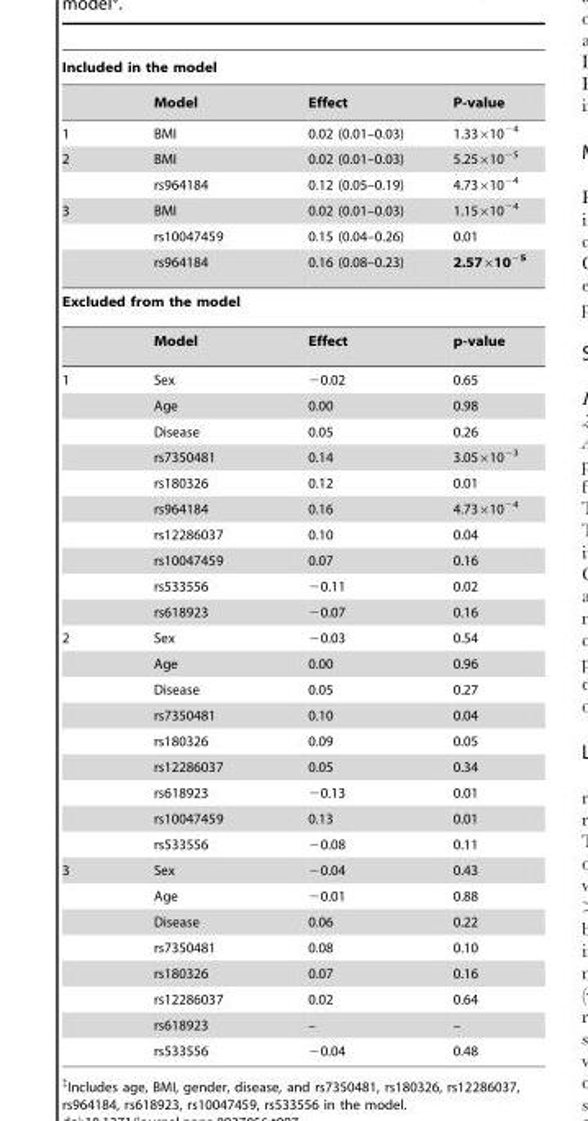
<table><thead><tr><td colspan="4">Included in the model</td></tr><tr><td></td><td>Model</td><td>Effect</td><td>P-value</td></tr></thead><tbody><tr><td>1</td><td>BMI</td><td>0.02 (0.01–0.03)</td><td>1.33×10<sup>−4</sup></td></tr><tr><td rowspan="2">2</td><td>BMI</td><td>0.02 (0.01–0.03)</td><td>5.25×10<sup>−5</sup></td></tr><tr><td>rs964184</td><td>0.12 (0.05–0.19)</td><td>4.73×10<sup>−4</sup></td></tr><tr><td rowspan="3">3</td><td>BMI</td><td>0.02 (0.01–0.03)</td><td>1.15×10<sup>−4</sup></td></tr><tr><td>rs10047459</td><td>0.15 (0.04–0.26)</td><td>0.01</td></tr><tr><td>rs964184</td><td>0.16 (0.08–0.23)</td><td>2.57×10<sup>−5</sup></td></tr><tr><td colspan="4">Excluded from the model</td></tr><tr><td></td><td>Model</td><td>Effect</td><td>p-value</td></tr><tr><td rowspan="10">1</td><td>Sex</td><td>−0.02</td><td>0.65</td></tr><tr><td>Age</td><td>0.00</td><td>0.98</td></tr><tr><td>Disease</td><td>0.05</td><td>0.26</td></tr><tr><td>rs7350481</td><td>0.14</td><td>3.05×10<sup>−3</sup></td></tr><tr><td>rs180326</td><td>0.12</td><td>0.01</td></tr><tr><td>rs964184</td><td>0.16</td><td>4.73×10<sup>−4</sup></td></tr><tr><td>rs12286037</td><td>0.10</td><td>0.04</td></tr><tr><td>rs10047459</td><td>0.07</td><td>0.16</td></tr><tr><td>rs533556</td><td>−0.11</td><td>0.02</td></tr><tr><td>rs618923</td><td>−0.07</td><td>0.16</td></tr><tr><td rowspan="9">2</td><td>Sex</td><td>−0.03</td><td>0.54</td></tr><tr><td>Age</td><td>0.00</td><td>0.96</td></tr><tr><td>Disease</td><td>0.05</td><td>0.27</td></tr><tr><td>rs7350481</td><td>0.10</td><td>0.04</td></tr><tr><td>rs180326</td><td>0.09</td><td>0.05</td></tr><tr><td>rs12286037</td><td>0.05</td><td>0.34</td></tr><tr><td>rs618923</td><td>−0.13</td><td>0.01</td></tr><tr><td>rs10047459</td><td>0.13</td><td>0.01</td></tr><tr><td>rs533556</td><td>−0.08</td><td>0.11</td></tr><tr><td rowspan="8">3</td><td>Sex</td><td>−0.04</td><td>0.43</td></tr><tr><td>Age</td><td>−0.01</td><td>0.88</td></tr><tr><td>Disease</td><td>0.06</td><td>0.22</td></tr><tr><td>rs7350481</td><td>0.08</td><td>0.10</td></tr><tr><td>rs180326</td><td>0.07</td><td>0.16</td></tr><tr><td>rs12286037</td><td>0.02</td><td>0.64</td></tr><tr><td>rs618923</td><td>–</td><td>–</td></tr><tr><td>rs533556</td><td>−0.04</td><td>0.48</td></tr></tbody></table>